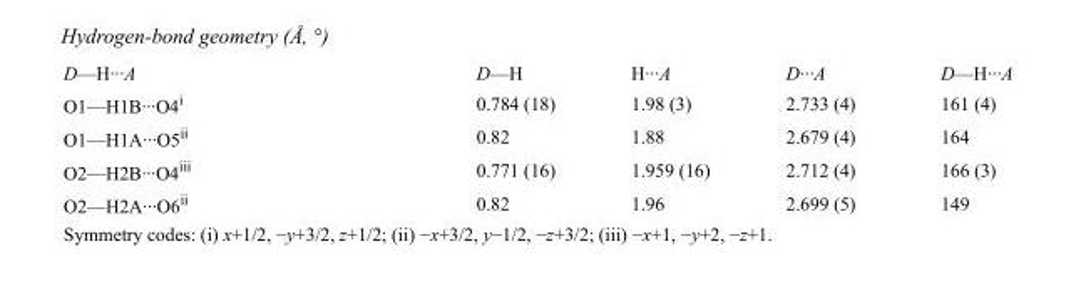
<table><tbody><tr><td>D—H···A</td><td>D—H</td><td>H···A</td><td>D···A</td><td>D—H···A</td></tr><tr><td>O1—H1B···O4i</td><td>0.784 (18)</td><td>1.98 (3)</td><td>2.733 (4)</td><td>161 (4)</td></tr><tr><td>O1—H1A···O5ii</td><td>0.82</td><td>1.88</td><td>2.679 (4)</td><td>164</td></tr><tr><td>O2—H2B···O4iii</td><td>0.771 (16)</td><td>1.959 (16)</td><td>2.712 (4)</td><td>166 (3)</td></tr><tr><td>O2—H2A···O6ii</td><td>0.82</td><td>1.96</td><td>2.699 (5)</td><td>149</td></tr></tbody></table>